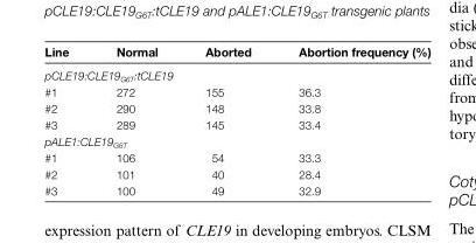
<table><thead><tr><td>Line</td><td>Normal</td><td>Aborted</td><td>Abortion frequency (%)</td></tr></thead><tbody><tr><td colspan="4">pCLE19:CLE19<sub>G6T</sub>:tCLE19</td></tr><tr><td>#1</td><td>272</td><td>155</td><td>36.3</td></tr><tr><td>#2</td><td>290</td><td>148</td><td>33.8</td></tr><tr><td>#3</td><td>289</td><td>145</td><td>33.4</td></tr><tr><td colspan="4">pALE1:CLE19<sub>G6T</sub></td></tr><tr><td>#1</td><td>106</td><td>54</td><td>33.3</td></tr><tr><td>#2</td><td>101</td><td>40</td><td>28.4</td></tr><tr><td>#3</td><td>100</td><td>49</td><td>32.9</td></tr></tbody></table>